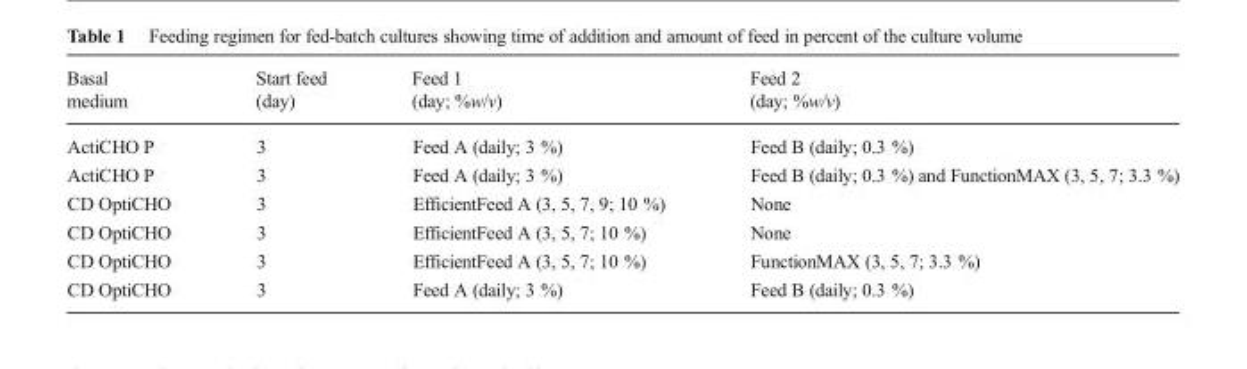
<table><thead><tr><td>Basal medium</td><td>Start feed (day)</td><td>Feed 1 (day; %w/v)</td><td>Feed 2 (day; %w/v)</td></tr></thead><tbody><tr><td>ActiCHO P</td><td>3</td><td>Feed A (daily; 3 %)</td><td>Feed B (daily; 0.3 %)</td></tr><tr><td>ActiCHO P</td><td>3</td><td>Feed A (daily; 3 %)</td><td>Feed B (daily; 0.3 %) and FunctionMAX (3, 5, 7; 3.3 %)</td></tr><tr><td>CD OptiCHO</td><td>3</td><td>EfficientFeed A (3, 5, 7, 9; 10 %)</td><td>None</td></tr><tr><td>CD OptiCHO</td><td>3</td><td>EfficientFeed A (3, 5, 7; 10 %)</td><td>None</td></tr><tr><td>CD OptiCHO</td><td>3</td><td>EfficientFeed A (3, 5, 7; 10 %)</td><td>FunctionMAX (3, 5, 7; 3.3 %)</td></tr><tr><td>CD OptiCHO</td><td>3</td><td>Feed A (daily; 3 %)</td><td>Feed B (daily; 0.3 %)</td></tr></tbody></table>